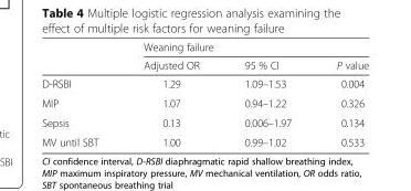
<table><thead><tr><td rowspan="2"></td><td colspan="3">Weaning failure</td></tr><tr><td>Adjusted OR</td><td>95 % CI</td><td>P value</td></tr></thead><tbody><tr><td>D-RSBI</td><td>1.29</td><td>1.09–1.53</td><td>0.004</td></tr><tr><td>MIP</td><td>1.07</td><td>0.94–1.22</td><td>0.326</td></tr><tr><td>Sepsis</td><td>0.13</td><td>0.006–1.97</td><td>0.134</td></tr><tr><td>MV until SBT</td><td>1.00</td><td>0.99–1.02</td><td>0.533</td></tr></tbody></table>